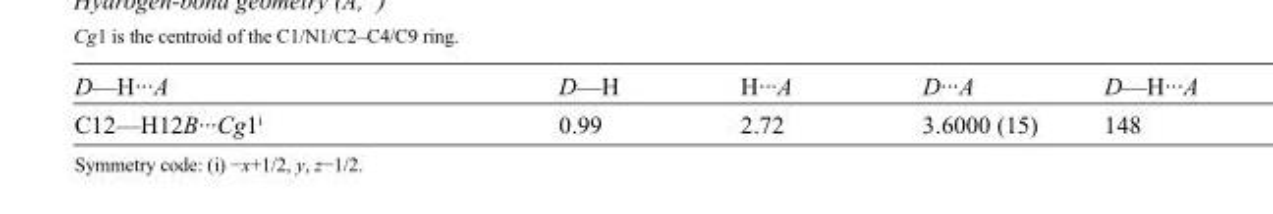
<table><tbody><tr><td>D—H···A</td><td>D—H</td><td>H···A</td><td>D···A</td><td>D—H···A</td></tr><tr><td>C12—H12B···Cg1<sup>i</sup></td><td>0.99</td><td>2.72</td><td>3.6000 (15)</td><td>148</td></tr></tbody></table>